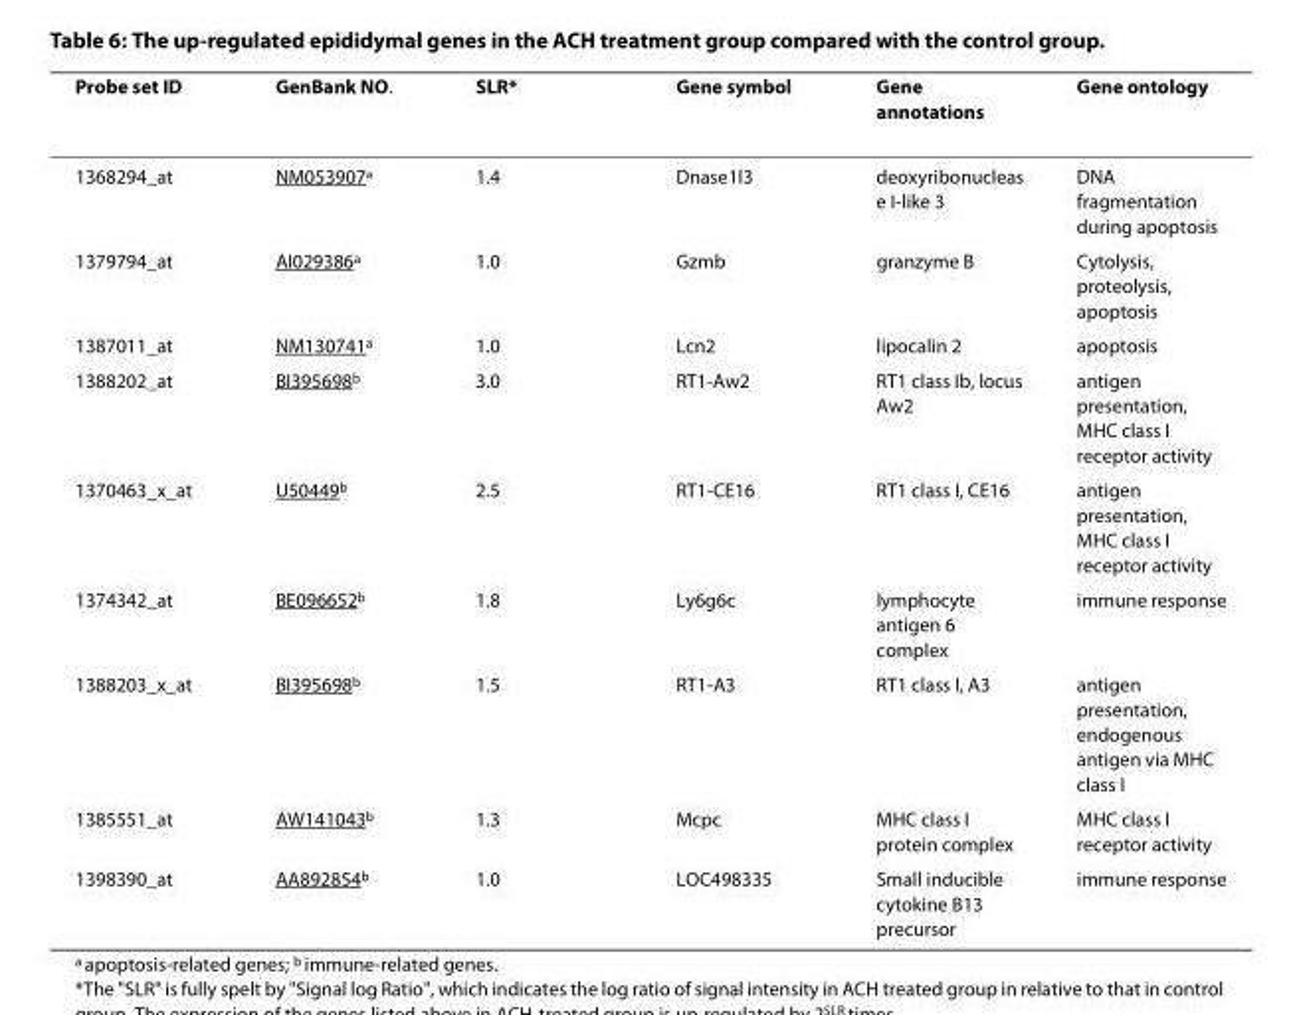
<table><thead><tr><td>Probe set ID</td><td>GenBank NO.</td><td>SLR*</td><td>Gene symbol</td><td>Gene annotations</td><td>Gene ontology</td></tr></thead><tbody><tr><td>1368294_at</td><td>NM053907<sup>a</sup></td><td>1.4</td><td>Dnase1l3</td><td>deoxyribonucleas e I-like 3</td><td>DNA fragmentation during apoptosis</td></tr><tr><td>1379794_at</td><td>AI029386<sup>a</sup></td><td>1.0</td><td>Gzmb</td><td>granzyme B</td><td>Cytolysis, proteolysis, apoptosis</td></tr><tr><td>1387011_at</td><td>NM130741<sup>a</sup></td><td>1.0</td><td>Lcn2</td><td>lipocalin 2</td><td>apoptosis</td></tr><tr><td>1388202_at</td><td>BI395698<sup>b</sup></td><td>3.0</td><td>RT1-Aw2</td><td>RT1 class Ib, locus Aw2</td><td>antigen presentation, MHC class I receptor activity</td></tr><tr><td>1370463_x_at</td><td>U50449<sup>b</sup></td><td>2.5</td><td>RT1-CE16</td><td>RT1 class I, CE16</td><td>antigen presentation, MHC class I receptor activity</td></tr><tr><td>1374342_at</td><td>BE096652<sup>b</sup></td><td>1.8</td><td>Ly6g6c</td><td>lymphocyte antigen 6 complex</td><td>immune response</td></tr><tr><td>1388203_x_at</td><td>BI395698<sup>b</sup></td><td>1.5</td><td>RT1-A3</td><td>RT1 class I, A3</td><td>antigen presentation, endogenous antigen via MHC class I</td></tr><tr><td>1385551_at</td><td>AW141043<sup>b</sup></td><td>1.3</td><td>Mcpc</td><td>MHC class I protein complex</td><td>MHC class I receptor activity</td></tr><tr><td>1398390_at</td><td>AA892854<sup>b</sup></td><td>1.0</td><td>LOC498335</td><td>Small inducible cytokine B13 precursor</td><td>immune response</td></tr></tbody></table>